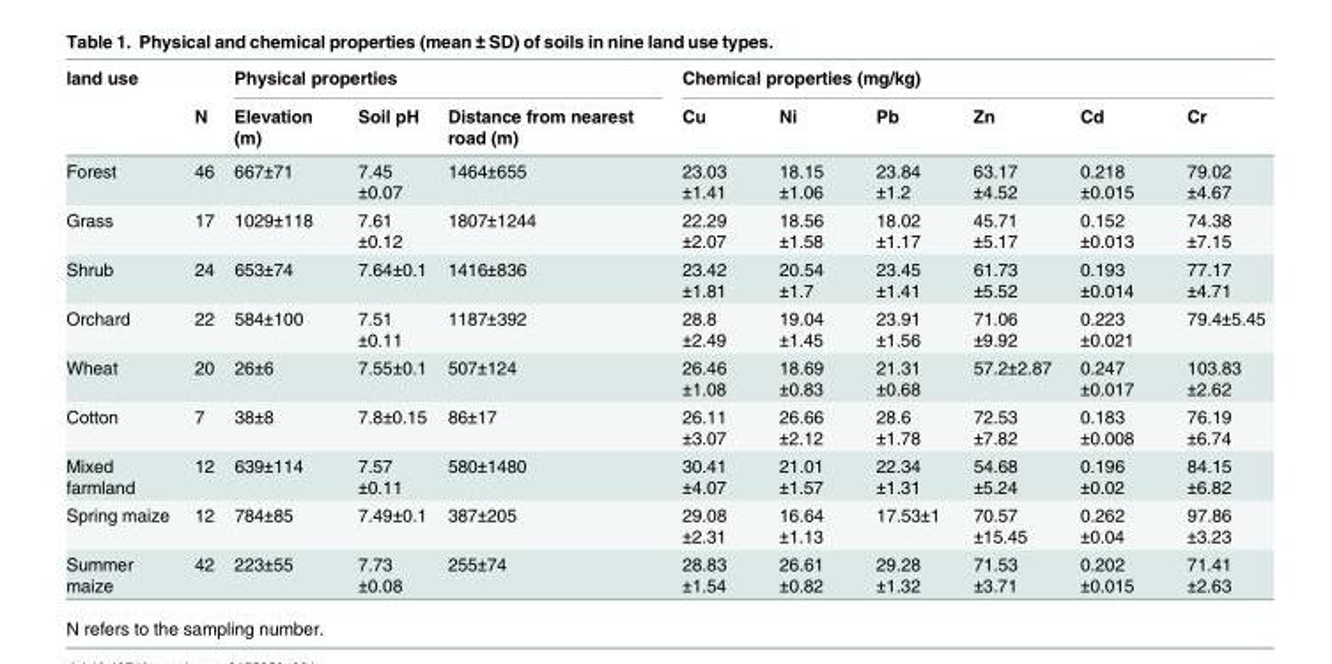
<table><thead><tr><td rowspan="2">land use</td><td rowspan="2">N</td><td colspan="3">Physical properties</td><td colspan="6">Chemical properties (mg/kg)</td></tr><tr><td>Elevation (m)</td><td>Soil pH</td><td>Distance from nearest road (m)</td><td>Cu</td><td>Ni</td><td>Pb</td><td>Zn</td><td>Cd</td><td>Cr</td></tr></thead><tbody><tr><td>Forest</td><td>46</td><td>667±71</td><td>7.45 ±0.07</td><td>1464±655</td><td>23.03 ±1.41</td><td>18.15 ±1.06</td><td>23.84 ±1.2</td><td>63.17 ±4.52</td><td>0.218 ±0.015</td><td>79.02 ±4.67</td></tr><tr><td>Grass</td><td>17</td><td>1029±118</td><td>7.61 ±0.12</td><td>1807±1244</td><td>22.29 ±2.07</td><td>18.56 ±1.58</td><td>18.02 ±1.17</td><td>45.71 ±5.17</td><td>0.152 ±0.013</td><td>74.38 ±7.15</td></tr><tr><td>Shrub</td><td>24</td><td>653±74</td><td>7.64±0.1</td><td>1416±836</td><td>23.42 ±1.81</td><td>20.54 ±1.7</td><td>23.45 ±1.41</td><td>61.73 ±5.52</td><td>0.193 ±0.014</td><td>77.17 ±4.71</td></tr><tr><td>Orchard</td><td>22</td><td>584±100</td><td>7.51 ±0.11</td><td>1187±392</td><td>28.8 ±2.49</td><td>19.04 ±1.45</td><td>23.91 ±1.56</td><td>71.06 ±9.92</td><td>0.223 ±0.021</td><td>79.4±5.45</td></tr><tr><td>Wheat</td><td>20</td><td>26±6</td><td>7.55±0.1</td><td>507±124</td><td>26.46 ±1.08</td><td>18.69 ±0.83</td><td>21.31 ±0.68</td><td>57.2±2.87</td><td>0.247 ±0.017</td><td>103.83 ±2.62</td></tr><tr><td>Cotton</td><td>7</td><td>38±8</td><td>7.8±0.15</td><td>86±17</td><td>26.11 ±3.07</td><td>26.66 ±2.12</td><td>28.6 ±1.78</td><td>72.53 ±7.82</td><td>0.183 ±0.008</td><td>76.19 ±6.74</td></tr><tr><td>Mixed farmland</td><td>12</td><td>639±114</td><td>7.57 ±0.11</td><td>580±1480</td><td>30.41 ±4.07</td><td>21.01 ±1.57</td><td>22.34 ±1.31</td><td>54.68 ±5.24</td><td>0.196 ±0.02</td><td>84.15 ±6.82</td></tr><tr><td>Spring maize</td><td>12</td><td>784±85</td><td>7.49±0.1</td><td>387±205</td><td>29.08 ±2.31</td><td>16.64 ±1.13</td><td>17.53±1</td><td>70.57 ±15.45</td><td>0.262 ±0.04</td><td>97.86 ±3.23</td></tr><tr><td>Summer maize</td><td>42</td><td>223±55</td><td>7.73 ±0.08</td><td>255±74</td><td>28.83 ±1.54</td><td>26.61 ±0.82</td><td>29.28 ±1.32</td><td>71.53 ±3.71</td><td>0.202 ±0.015</td><td>71.41 ±2.63</td></tr></tbody></table>